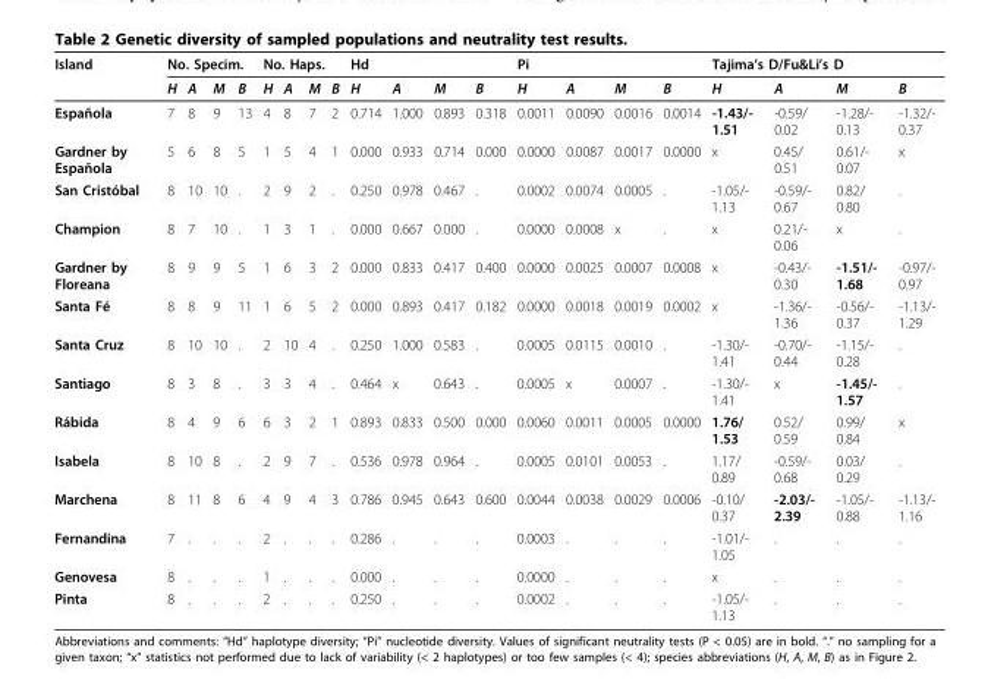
<table><thead><tr><td rowspan="2">Island</td><td colspan="4">No. Specim.</td><td colspan="4">No. Haps.</td><td rowspan="2">Hd H</td><td rowspan="2">A</td><td rowspan="2">M</td><td rowspan="2">B</td><td rowspan="2">Pi H</td><td rowspan="2">A</td><td rowspan="2">M</td><td rowspan="2">B</td><td colspan="4">Tajima’s D/Fu&amp;Li’s D</td></tr><tr><td>H</td><td>A</td><td>M</td><td>B</td><td>H</td><td>A</td><td>M</td><td>B</td><td>H</td><td>A</td><td>M</td><td>B</td></tr></thead><tbody><tr><td>Española</td><td>7</td><td>8</td><td>9</td><td>13</td><td>4</td><td>8</td><td>7</td><td>2</td><td>0.714</td><td>1.000</td><td>0.893</td><td>0.318</td><td>0.0011</td><td>0.0090</td><td>0.0016</td><td>0.0014</td><td>-1.43/- 1.51</td><td>-0.59/ 0.02</td><td>-1.28/- 0.13</td><td>-1.32/- 0.37</td></tr><tr><td>Gardner by Española</td><td>5</td><td>6</td><td>8</td><td>5</td><td>1</td><td>5</td><td>4</td><td>1</td><td>0.000</td><td>0.933</td><td>0.714</td><td>0.000</td><td>0.0000</td><td>0.0087</td><td>0.0017</td><td>0.0000</td><td>x</td><td>0.45/ 0.51</td><td>0.61/- 0.07</td><td>x</td></tr><tr><td>San Cristóbal</td><td>8</td><td>10</td><td>10</td><td>.</td><td>2</td><td>9</td><td>2</td><td>.</td><td>0.250</td><td>0.978</td><td>0.467</td><td>.</td><td>0.0002</td><td>0.0074</td><td>0.0005</td><td>.</td><td>-1.05/- 1.13</td><td>-0.59/- 0.67</td><td>0.82/ 0.80</td><td>.</td></tr><tr><td>Champion</td><td>8</td><td>7</td><td>10</td><td>.</td><td>1</td><td>3</td><td>1</td><td>.</td><td>0.000</td><td>0.667</td><td>0.000</td><td>.</td><td>0.0000</td><td>0.0008</td><td>x</td><td>.</td><td>x</td><td>0.21/- 0.06</td><td>x</td><td>.</td></tr><tr><td>Gardner by Floreana</td><td>8</td><td>9</td><td>9</td><td>5</td><td>1</td><td>6</td><td>3</td><td>2</td><td>0.000</td><td>0.833</td><td>0.417</td><td>0.400</td><td>0.0000</td><td>0.0025</td><td>0.0007</td><td>0.0008</td><td>x</td><td>-0.43/- 0.30</td><td>-1.51/- 1.68</td><td>-0.97/- 0.97</td></tr><tr><td>Santa Fé</td><td>8</td><td>8</td><td>9</td><td>11</td><td>1</td><td>6</td><td>5</td><td>2</td><td>0.000</td><td>0.893</td><td>0.417</td><td>0.182</td><td>0.0000</td><td>0.0018</td><td>0.0019</td><td>0.0002</td><td>x</td><td>-1.36/- 1.36</td><td>-0.56/- 0.37</td><td>-1.13/- 1.29</td></tr><tr><td>Santa Cruz</td><td>8</td><td>10</td><td>10</td><td>.</td><td>2</td><td>10</td><td>4</td><td>.</td><td>0.250</td><td>1.000</td><td>0.583</td><td>.</td><td>0.0005</td><td>0.0115</td><td>0.0010</td><td>.</td><td>-1.30/- 1.41</td><td>-0.70/- 0.44</td><td>-1.15/- 0.28</td><td>.</td></tr><tr><td>Santiago</td><td>8</td><td>3</td><td>8</td><td>.</td><td>3</td><td>3</td><td>4</td><td>.</td><td>0.464</td><td>x</td><td>0.643</td><td>.</td><td>0.0005</td><td>x</td><td>0.0007</td><td>.</td><td>-1.30/- 1.41</td><td>x</td><td>-1.45/- 1.57</td><td>.</td></tr><tr><td>Rábida</td><td>8</td><td>4</td><td>9</td><td>6</td><td>6</td><td>3</td><td>2</td><td>1</td><td>0.893</td><td>0.833</td><td>0.500</td><td>0.000</td><td>0.0060</td><td>0.0011</td><td>0.0005</td><td>0.0000</td><td>1.76/ 1.53</td><td>0.52/ 0.59</td><td>0.99/ 0.84</td><td>x</td></tr><tr><td>Isabela</td><td>8</td><td>10</td><td>8</td><td>.</td><td>2</td><td>9</td><td>7</td><td>.</td><td>0.536</td><td>0.978</td><td>0.964</td><td>.</td><td>0.0005</td><td>0.0101</td><td>0.0053</td><td>.</td><td>1.17/ 0.89</td><td>-0.59/- 0.68</td><td>0.03/ 0.29</td><td>.</td></tr><tr><td>Marchena</td><td>8</td><td>11</td><td>8</td><td>6</td><td>4</td><td>9</td><td>4</td><td>3</td><td>0.786</td><td>0.945</td><td>0.643</td><td>0.600</td><td>0.0044</td><td>0.0038</td><td>0.0029</td><td>0.0006</td><td>-0.10/ 0.37</td><td>-2.03/- 2.39</td><td>-1.05/- 0.88</td><td>-1.13/- 1.16</td></tr><tr><td>Fernandina</td><td>7</td><td>.</td><td>.</td><td>.</td><td>2</td><td>.</td><td>.</td><td>.</td><td>0.286</td><td>.</td><td>.</td><td>.</td><td>0.0003</td><td>.</td><td>.</td><td>.</td><td>-1.01/- 1.05</td><td>.</td><td>.</td><td>.</td></tr><tr><td>Genovesa</td><td>8</td><td>.</td><td>.</td><td>.</td><td>1</td><td>.</td><td>.</td><td>.</td><td>0.000</td><td>.</td><td>.</td><td>.</td><td>0.0000</td><td>.</td><td>.</td><td>.</td><td>x</td><td>.</td><td>.</td><td>.</td></tr><tr><td>Pinta</td><td>8</td><td>.</td><td>.</td><td>.</td><td>2</td><td>.</td><td>.</td><td>.</td><td>0.250</td><td>.</td><td>.</td><td>.</td><td>0.0002</td><td>.</td><td>.</td><td>.</td><td>-1.05/- 1.13</td><td>.</td><td>.</td><td>.</td></tr></tbody></table>